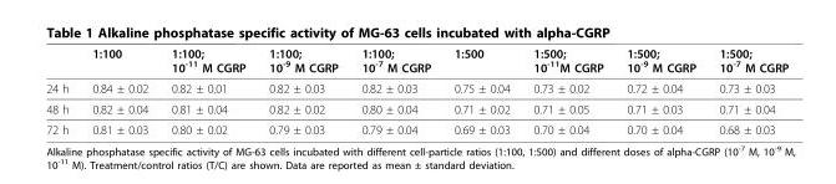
<table><thead><tr><td></td><td>1:100</td><td>1:100; 10<sup>-11</sup> M CGRP</td><td>1:100; 10<sup>-9</sup> M CGRP</td><td>1:100; 10<sup>-7</sup> M CGRP</td><td>1:500</td><td>1:500; 10<sup>-11</sup>M CGRP</td><td>1:500; 10<sup>-9</sup> M CGRP</td><td>1:500; 10<sup>-7</sup> M CGRP</td></tr></thead><tbody><tr><td>24 h</td><td>0.84 ± 0.02</td><td>0.82 ± 0.01</td><td>0.82 ± 0.03</td><td>0.82 ± 0.03</td><td>0.75 ± 0.04</td><td>0.73 ± 0.02</td><td>0.72 ± 0.04</td><td>0.73 ± 0.03</td></tr><tr><td>48 h</td><td>0.82 ± 0.04</td><td>0.81 ± 0.04</td><td>0.82 ± 0.02</td><td>0.80 ± 0.04</td><td>0.71 ± 0.02</td><td>0.71 ± 0.05</td><td>0.71 ± 0.03</td><td>0.71 ± 0.04</td></tr><tr><td>72 h</td><td>0.81 ± 0.03</td><td>0.80 ± 0.02</td><td>0.79 ± 0.03</td><td>0.79 ± 0.04</td><td>0.69 ± 0.03</td><td>0.70 ± 0.04</td><td>0.70 ± 0.04</td><td>0.68 ± 0.03</td></tr></tbody></table>